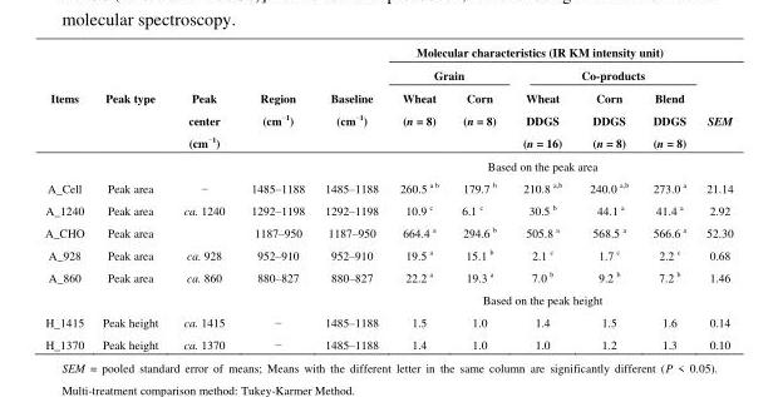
<table><thead><tr><td rowspan="3">Items</td><td rowspan="3">Peak type</td><td rowspan="3">Peak center (cm<sup>−1</sup>)</td><td rowspan="3">Region (cm<sup>−1</sup>)</td><td rowspan="3">Baseline (cm<sup>−1</sup>)</td><td colspan="6">Molecular characteristics (IR KM intensity unit)</td></tr><tr><td colspan="2">Grain</td><td colspan="3">Co-products</td><td rowspan="2">SEM</td></tr><tr><td>Wheat (n = 8)</td><td>Corn (n = 8)</td><td>Wheat DDGS (n = 16)</td><td>Corn DDGS (n = 8)</td><td>Blend DDGS (n = 8)</td></tr></thead><tbody><tr><td></td><td></td><td></td><td></td><td></td><td></td><td colspan="3">Based on the peak area</td><td></td><td></td></tr><tr><td>A_Cell</td><td>Peak area</td><td>−</td><td>1485–1188</td><td>1485–1188</td><td>260.5 <sup>a b</sup></td><td>179.7 <sup>b</sup></td><td>210.8 <sup>a,b</sup></td><td>240.0 <sup>a,b</sup></td><td>273.0 <sup>a</sup></td><td>21.14</td></tr><tr><td>A_1240</td><td>Peak area</td><td>ca. 1240</td><td>1292–1198</td><td>1292–1198</td><td>10.9 <sup>c</sup></td><td>6.1 <sup>c</sup></td><td>30.5 <sup>b</sup></td><td>44.1 <sup>a</sup></td><td>41.4 <sup>a</sup></td><td>2.92</td></tr><tr><td>A_CHO</td><td>Peak area</td><td></td><td>1187–950</td><td>1187–950</td><td>664.4 <sup>a</sup></td><td>294.6 <sup>b</sup></td><td>505.8 <sup>a</sup></td><td>568.5 <sup>a</sup></td><td>566.6 <sup>a</sup></td><td>52.30</td></tr><tr><td>A_928</td><td>Peak area</td><td>ca. 928</td><td>952–910</td><td>952–910</td><td>19.5 <sup>a</sup></td><td>15.1 <sup>b</sup></td><td>2.1 <sup>c</sup></td><td>1.7 <sup>c</sup></td><td>2.2 <sup>c</sup></td><td>0.68</td></tr><tr><td rowspan="2">A_860</td><td>Peak area</td><td>ca. 860</td><td>880–827</td><td>880–827</td><td>22.2 <sup>a</sup></td><td>19.3 <sup>a</sup></td><td>7.0 <sup>b</sup></td><td>9.2 <sup>b</sup></td><td>7.2 <sup>b</sup></td><td>1.46</td></tr><tr><td></td><td></td><td></td><td></td><td></td><td colspan="3">Based on the peak height</td><td></td><td></td></tr><tr><td>H_1415</td><td>Peak height</td><td>ca. 1415</td><td>−</td><td>1485–1188</td><td>1.5</td><td>1.0</td><td>1.4</td><td>1.5</td><td>1.6</td><td>0.14</td></tr><tr><td>H_1370</td><td>Peak height</td><td>ca. 1370</td><td>−</td><td>1485–1188</td><td>1.4</td><td>1.0</td><td>1.0</td><td>1.2</td><td>1.3</td><td>0.10</td></tr></tbody></table>